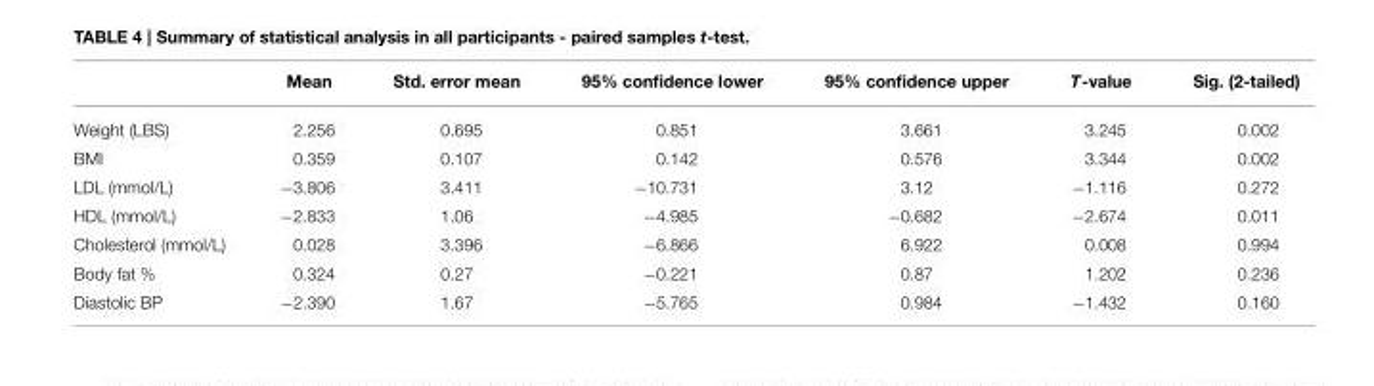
<table><thead><tr><td></td><td>Mean</td><td>Std. error mean</td><td>95% confidence lower</td><td>95% confidence upper</td><td>T-value</td><td>Sig. (2-tailed)</td></tr></thead><tbody><tr><td>Weight (LBS)</td><td>2.256</td><td>0.695</td><td>0.851</td><td>3.661</td><td>3.245</td><td>0.002</td></tr><tr><td>BMI</td><td>0.359</td><td>0.107</td><td>0.142</td><td>0.576</td><td>3.344</td><td>0.002</td></tr><tr><td>LDL (mmol/L)</td><td>−3.806</td><td>3.411</td><td>−10.731</td><td>3.12</td><td>−1.116</td><td>0.272</td></tr><tr><td>HDL (mmol/L)</td><td>−2.833</td><td>1.06</td><td>−4.985</td><td>−0.682</td><td>−2.674</td><td>0.011</td></tr><tr><td>Cholesterol (mmol/L)</td><td>0.028</td><td>3.396</td><td>−6.866</td><td>6.922</td><td>0.008</td><td>0.994</td></tr><tr><td>Body fat %</td><td>0.324</td><td>0.27</td><td>−0.221</td><td>0.87</td><td>1.202</td><td>0.236</td></tr><tr><td>Diastolic BP</td><td>−2.390</td><td>1.67</td><td>−5.765</td><td>0.984</td><td>−1.432</td><td>0.160</td></tr></tbody></table>